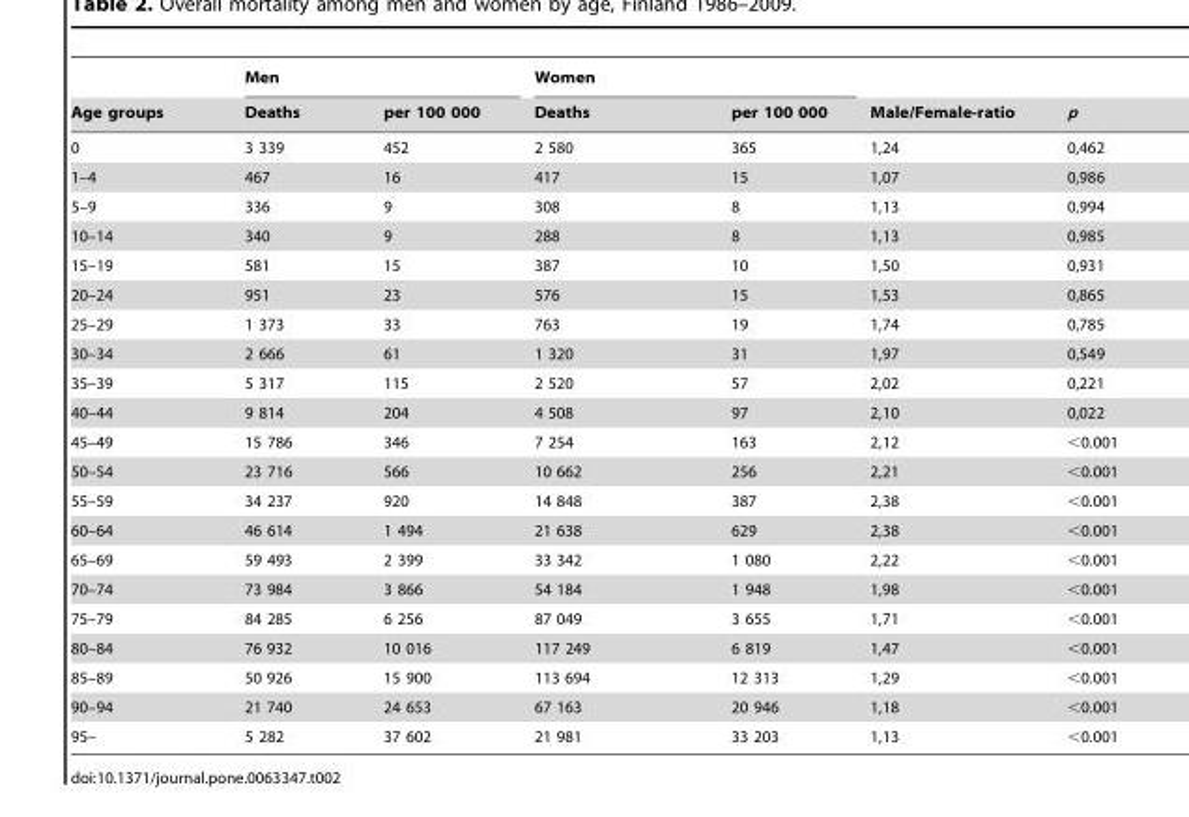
<table><thead><tr><td rowspan="2">Age groups</td><td colspan="2">Men</td><td colspan="2">Women</td><td rowspan="2">Male/Female-ratio</td><td rowspan="2">p</td></tr><tr><td>Deaths</td><td>per 100 000</td><td>Deaths</td><td>per 100 000</td></tr></thead><tbody><tr><td>0</td><td>3 339</td><td>452</td><td>2 580</td><td>365</td><td>1,24</td><td>0,462</td></tr><tr><td>1–4</td><td>467</td><td>16</td><td>417</td><td>15</td><td>1,07</td><td>0,986</td></tr><tr><td>5–9</td><td>336</td><td>9</td><td>308</td><td>8</td><td>1,13</td><td>0,994</td></tr><tr><td>10–14</td><td>340</td><td>9</td><td>288</td><td>8</td><td>1,13</td><td>0,985</td></tr><tr><td>15–19</td><td>581</td><td>15</td><td>387</td><td>10</td><td>1,50</td><td>0,931</td></tr><tr><td>20–24</td><td>951</td><td>23</td><td>576</td><td>15</td><td>1,53</td><td>0,865</td></tr><tr><td>25–29</td><td>1 373</td><td>33</td><td>763</td><td>19</td><td>1,74</td><td>0,785</td></tr><tr><td>30–34</td><td>2 666</td><td>61</td><td>1 320</td><td>31</td><td>1,97</td><td>0,549</td></tr><tr><td>35–39</td><td>5 317</td><td>115</td><td>2 520</td><td>57</td><td>2,02</td><td>0,221</td></tr><tr><td>40–44</td><td>9 814</td><td>204</td><td>4 508</td><td>97</td><td>2,10</td><td>0,022</td></tr><tr><td>45–49</td><td>15 786</td><td>346</td><td>7 254</td><td>163</td><td>2,12</td><td>&lt;0.001</td></tr><tr><td>50–54</td><td>23 716</td><td>566</td><td>10 662</td><td>256</td><td>2,21</td><td>&lt;0.001</td></tr><tr><td>55–59</td><td>34 237</td><td>920</td><td>14 848</td><td>387</td><td>2,38</td><td>&lt;0.001</td></tr><tr><td>60–64</td><td>46 614</td><td>1 494</td><td>21 638</td><td>629</td><td>2,38</td><td>&lt;0.001</td></tr><tr><td>65–69</td><td>59 493</td><td>2 399</td><td>33 342</td><td>1 080</td><td>2,22</td><td>&lt;0.001</td></tr><tr><td>70–74</td><td>73 984</td><td>3 866</td><td>54 184</td><td>1 948</td><td>1,98</td><td>&lt;0.001</td></tr><tr><td>75–79</td><td>84 285</td><td>6 256</td><td>87 049</td><td>3 655</td><td>1,71</td><td>&lt;0.001</td></tr><tr><td>80–84</td><td>76 932</td><td>10 016</td><td>117 249</td><td>6 819</td><td>1,47</td><td>&lt;0.001</td></tr><tr><td>85–89</td><td>50 926</td><td>15 900</td><td>113 694</td><td>12 313</td><td>1,29</td><td>&lt;0.001</td></tr><tr><td>90–94</td><td>21 740</td><td>24 653</td><td>67 163</td><td>20 946</td><td>1,18</td><td>&lt;0.001</td></tr><tr><td>95–</td><td>5 282</td><td>37 602</td><td>21 981</td><td>33 203</td><td>1,13</td><td>&lt;0.001</td></tr></tbody></table>